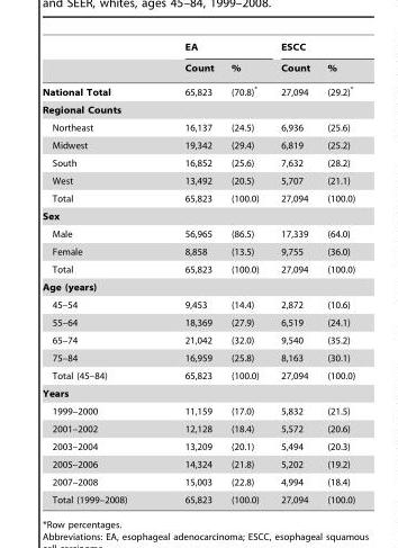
<table><thead><tr><td rowspan="2"></td><td colspan="2">EA</td><td colspan="2">ESCC</td></tr><tr><td>Count</td><td>%</td><td>Count</td><td>%</td></tr></thead><tbody><tr><td>National Total</td><td>65,823</td><td>(70.8)*</td><td>27,094</td><td>(29.2)*</td></tr><tr><td colspan="5">Regional Counts</td></tr><tr><td>Northeast</td><td>16,137</td><td>(24.5)</td><td>6,936</td><td>(25.6)</td></tr><tr><td>Midwest</td><td>19,342</td><td>(29.4)</td><td>6,819</td><td>(25.2)</td></tr><tr><td>South</td><td>16,852</td><td>(25.6)</td><td>7,632</td><td>(28.2)</td></tr><tr><td>West</td><td>13,492</td><td>(20.5)</td><td>5,707</td><td>(21.1)</td></tr><tr><td>Total</td><td>65,823</td><td>(100.0)</td><td>27,094</td><td>(100.0)</td></tr><tr><td colspan="5">Sex</td></tr><tr><td>Male</td><td>56,965</td><td>(86.5)</td><td>17,339</td><td>(64.0)</td></tr><tr><td>Female</td><td>8,858</td><td>(13.5)</td><td>9,755</td><td>(36.0)</td></tr><tr><td>Total</td><td>65,823</td><td>(100.0)</td><td>27,094</td><td>(100.0)</td></tr><tr><td colspan="5">Age (years)</td></tr><tr><td>45–54</td><td>9,453</td><td>(14.4)</td><td>2,872</td><td>(10.6)</td></tr><tr><td>55–64</td><td>18,369</td><td>(27.9)</td><td>6,519</td><td>(24.1)</td></tr><tr><td>65–74</td><td>21,042</td><td>(32.0)</td><td>9,540</td><td>(35.2)</td></tr><tr><td>75–84</td><td>16,959</td><td>(25.8)</td><td>8,163</td><td>(30.1)</td></tr><tr><td>Total (45–84)</td><td>65,823</td><td>(100.0)</td><td>27,094</td><td>(100.0)</td></tr><tr><td colspan="5">Years</td></tr><tr><td>1999–2000</td><td>11,159</td><td>(17.0)</td><td>5,832</td><td>(21.5)</td></tr><tr><td>2001–2002</td><td>12,128</td><td>(18.4)</td><td>5,572</td><td>(20.6)</td></tr><tr><td>2003–2004</td><td>13,209</td><td>(20.1)</td><td>5,494</td><td>(20.3)</td></tr><tr><td>2005–2006</td><td>14,324</td><td>(21.8)</td><td>5,202</td><td>(19.2)</td></tr><tr><td>2007–2008</td><td>15,003</td><td>(22.8)</td><td>4,994</td><td>(18.4)</td></tr><tr><td>Total (1999–2008)</td><td>65,823</td><td>(100.0)</td><td>27,094</td><td>(100.0)</td></tr></tbody></table>